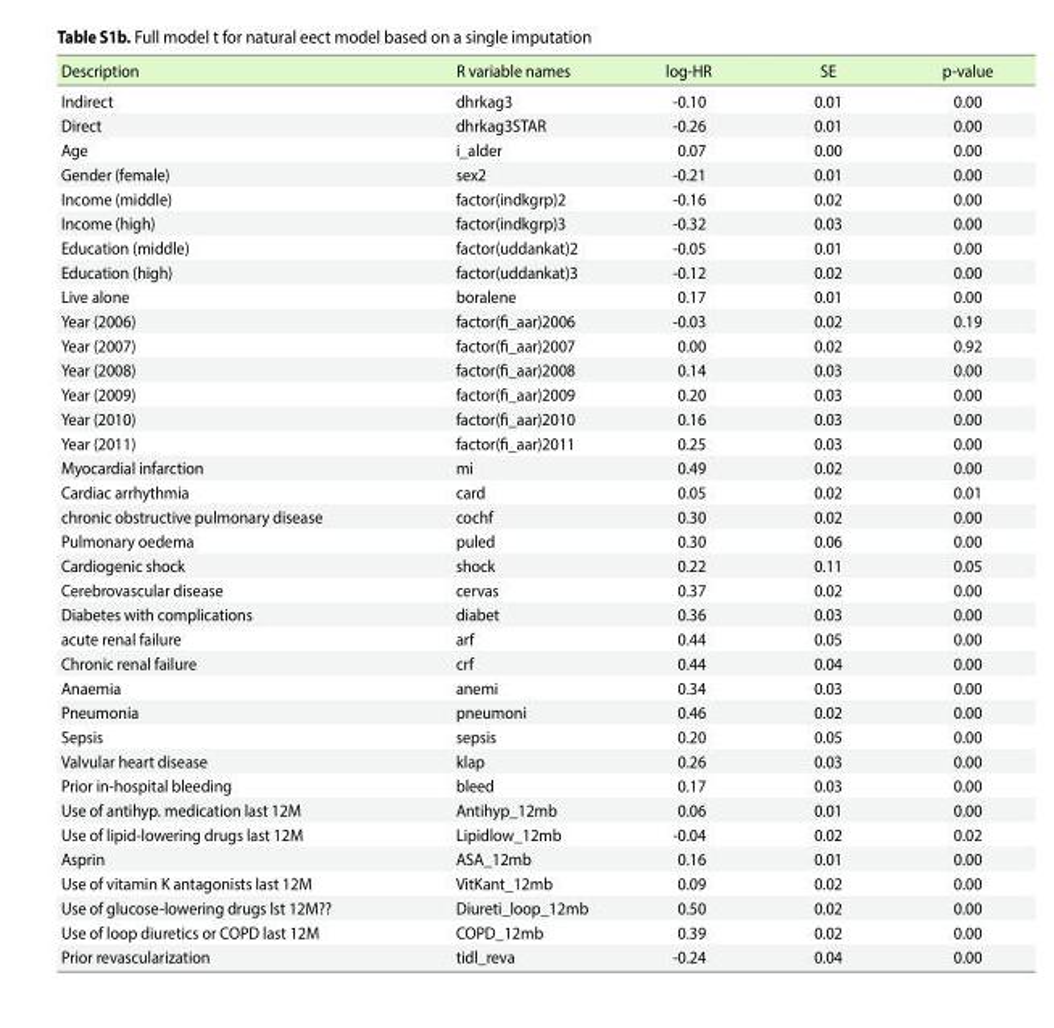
<table><thead><tr><td>Description</td><td>R variable names</td><td>log-HR</td><td>SE</td><td>p-value</td></tr></thead><tbody><tr><td>Indirect</td><td>dhrkag3</td><td>-0.10</td><td>0.01</td><td>0.00</td></tr><tr><td>Direct</td><td>dhrkag3STAR</td><td>-0.26</td><td>0.01</td><td>0.00</td></tr><tr><td>Age</td><td>i_alder</td><td>0.07</td><td>0.00</td><td>0.00</td></tr><tr><td>Gender (female)</td><td>sex2</td><td>-0.21</td><td>0.01</td><td>0.00</td></tr><tr><td>Income (middle)</td><td>factor(indkgrp)2</td><td>-0.16</td><td>0.02</td><td>0.00</td></tr><tr><td>Income (high)</td><td>factor(indkgrp)3</td><td>-0.32</td><td>0.03</td><td>0.00</td></tr><tr><td>Education (middle)</td><td>factor(uddankat)2</td><td>-0.05</td><td>0.01</td><td>0.00</td></tr><tr><td>Education (high)</td><td>factor(uddankat)3</td><td>-0.12</td><td>0.02</td><td>0.00</td></tr><tr><td>Live alone</td><td>boralene</td><td>0.17</td><td>0.01</td><td>0.00</td></tr><tr><td>Year (2006)</td><td>factor(fi_aar)2006</td><td>-0.03</td><td>0.02</td><td>0.19</td></tr><tr><td>Year (2007)</td><td>factor(fi_aar)2007</td><td>0.00</td><td>0.02</td><td>0.92</td></tr><tr><td>Year (2008)</td><td>factor(fi_aar)2008</td><td>0.14</td><td>0.03</td><td>0.00</td></tr><tr><td>Year (2009)</td><td>factor(fi_aar)2009</td><td>0.20</td><td>0.03</td><td>0.00</td></tr><tr><td>Year (2010)</td><td>factor(fi_aar)2010</td><td>0.16</td><td>0.03</td><td>0.00</td></tr><tr><td>Year (2011)</td><td>factor(fi_aar)2011</td><td>0.25</td><td>0.03</td><td>0.00</td></tr><tr><td>Myocardial infarction</td><td>mi</td><td>0.49</td><td>0.02</td><td>0.00</td></tr><tr><td>Cardiac arrhythmia</td><td>card</td><td>0.05</td><td>0.02</td><td>0.01</td></tr><tr><td>chronic obstructive pulmonary disease</td><td>cochf</td><td>0.30</td><td>0.02</td><td>0.00</td></tr><tr><td>Pulmonary oedema</td><td>puled</td><td>0.30</td><td>0.06</td><td>0.00</td></tr><tr><td>Cardiogenic shock</td><td>shock</td><td>0.22</td><td>0.11</td><td>0.05</td></tr><tr><td>Cerebrovascular disease</td><td>cervas</td><td>0.37</td><td>0.02</td><td>0.00</td></tr><tr><td>Diabetes with complications</td><td>diabet</td><td>0.36</td><td>0.03</td><td>0.00</td></tr><tr><td>acute renal failure</td><td>arf</td><td>0.44</td><td>0.05</td><td>0.00</td></tr><tr><td>Chronic renal failure</td><td>crf</td><td>0.44</td><td>0.04</td><td>0.00</td></tr><tr><td>Anaemia</td><td>anemi</td><td>0.34</td><td>0.03</td><td>0.00</td></tr><tr><td>Pneumonia</td><td>pneumoni</td><td>0.46</td><td>0.02</td><td>0.00</td></tr><tr><td>Sepsis</td><td>sepsis</td><td>0.20</td><td>0.05</td><td>0.00</td></tr><tr><td>Valvular heart disease</td><td>klap</td><td>0.26</td><td>0.03</td><td>0.00</td></tr><tr><td>Prior in-hospital bleeding</td><td>bleed</td><td>0.17</td><td>0.03</td><td>0.00</td></tr><tr><td>Use of antihyp. medication last 12M</td><td>Antihyp_12mb</td><td>0.06</td><td>0.01</td><td>0.00</td></tr><tr><td>Use of lipid-lowering drugs last 12M</td><td>Lipidlow_12mb</td><td>-0.04</td><td>0.02</td><td>0.02</td></tr><tr><td>Asprin</td><td>ASA_12mb</td><td>0.16</td><td>0.01</td><td>0.00</td></tr><tr><td>Use of vitamin K antagonists last 12M</td><td>VitKant_12mb</td><td>0.09</td><td>0.02</td><td>0.00</td></tr><tr><td>Use of glucose-lowering drugs lst 12M??</td><td>Diureti_loop_12mb</td><td>0.50</td><td>0.02</td><td>0.00</td></tr><tr><td>Use of loop diuretics or COPD last 12M</td><td>COPD_12mb</td><td>0.39</td><td>0.02</td><td>0.00</td></tr><tr><td>Prior revascularization</td><td>tidl_reva</td><td>-0.24</td><td>0.04</td><td>0.00</td></tr></tbody></table>